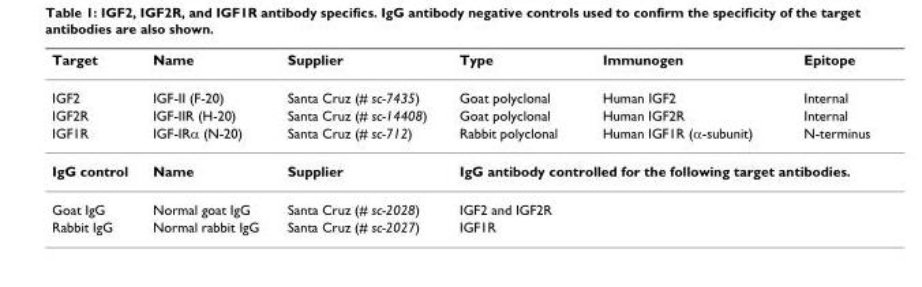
<table><thead><tr><td>Target</td><td>Name</td><td>Supplier</td><td>Type</td><td>Immunogen</td><td>Epitope</td></tr></thead><tbody><tr><td>IGF2</td><td>IGF-II (F-20)</td><td>Santa Cruz (# sc-7435)</td><td>Goat polyclonal</td><td>Human IGF2</td><td>Internal</td></tr><tr><td>IGF2R</td><td>IGF-IIR (H-20)</td><td>Santa Cruz (# sc-14408)</td><td>Goat polyclonal</td><td>Human IGF2R</td><td>Internal</td></tr><tr><td>IGF1R</td><td>IGF-IRα (N-20)</td><td>Santa Cruz (# sc-712)</td><td>Rabbit polyclonal</td><td>Human IGF1R (α-subunit)</td><td>N-terminus</td></tr><tr><td>IgG control</td><td>Name</td><td>Supplier</td><td colspan="3">IgG antibody controlled for the following target antibodies.</td></tr><tr><td>Goat IgG</td><td>Normal goat IgG</td><td>Santa Cruz (# sc-2028)</td><td>IGF2 and IGF2R</td><td></td><td></td></tr><tr><td>Rabbit IgG</td><td>Normal rabbit IgG</td><td>Santa Cruz (# sc-2027)</td><td>IGF1R</td><td></td><td></td></tr></tbody></table>